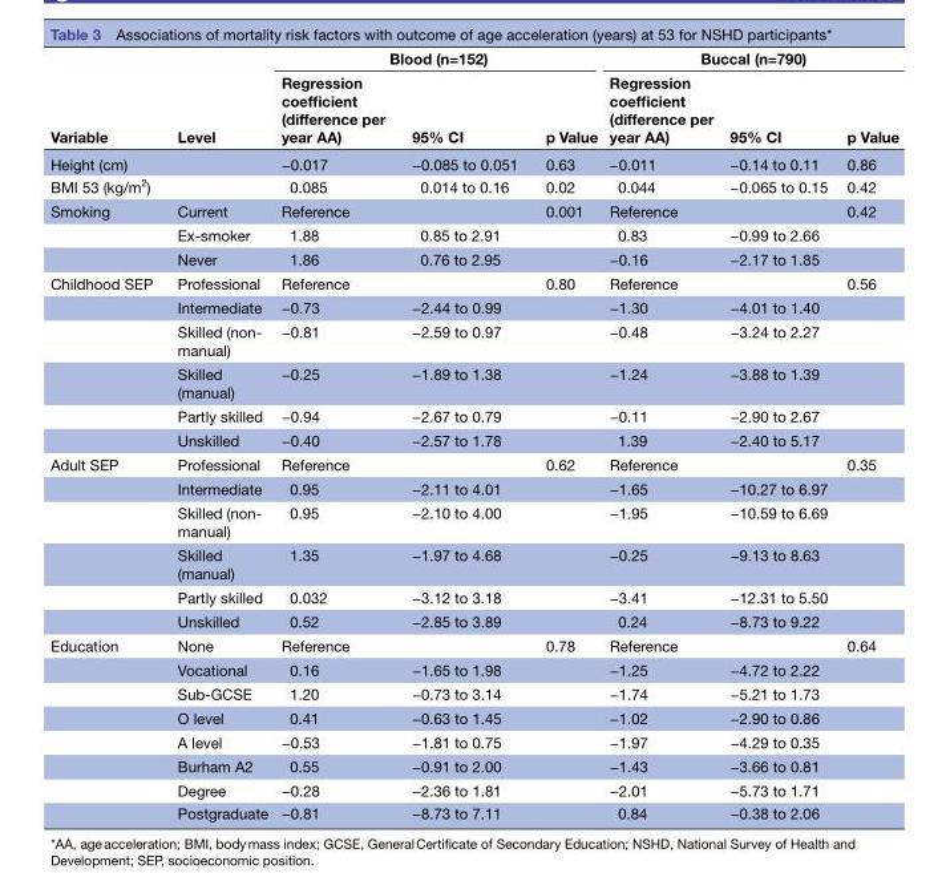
<table><thead><tr><td rowspan="2">Variable</td><td rowspan="2">Level</td><td colspan="3">Blood (n=152)</td><td colspan="3">Buccal (n=790)</td></tr><tr><td>Regression coefficient (difference per year AA)</td><td>95% CI</td><td>p Value</td><td>Regression coefficient (difference per year AA)</td><td>95% CI</td><td>p Value</td></tr></thead><tbody><tr><td>Height (cm)</td><td></td><td>−0.017</td><td>−0.085 to 0.051</td><td>0.63</td><td>−0.011</td><td>−0.14 to 0.11</td><td>0.86</td></tr><tr><td>BMI 53 (kg/m<sup>2</sup>)</td><td></td><td>0.085</td><td>0.014 to 0.16</td><td>0.02</td><td>0.044</td><td>−0.065 to 0.15</td><td>0.42</td></tr><tr><td rowspan="3">Smoking</td><td>Current</td><td>Reference</td><td></td><td>0.001</td><td>Reference</td><td></td><td>0.42</td></tr><tr><td>Ex-smoker</td><td>1.88</td><td>0.85 to 2.91</td><td></td><td>0.83</td><td>−0.99 to 2.66</td><td></td></tr><tr><td>Never</td><td>1.86</td><td>0.76 to 2.95</td><td></td><td>−0.16</td><td>−2.17 to 1.85</td><td></td></tr><tr><td rowspan="6">Childhood SEP</td><td>Professional</td><td>Reference</td><td></td><td>0.80</td><td>Reference</td><td></td><td>0.56</td></tr><tr><td>Intermediate</td><td>−0.73</td><td>−2.44 to 0.99</td><td></td><td>−1.30</td><td>−4.01 to 1.40</td><td></td></tr><tr><td>Skilled (non- manual)</td><td>−0.81</td><td>−2.59 to 0.97</td><td></td><td>−0.48</td><td>−3.24 to 2.27</td><td></td></tr><tr><td>Skilled (manual)</td><td>−0.25</td><td>−1.89 to 1.38</td><td></td><td>−1.24</td><td>−3.88 to 1.39</td><td></td></tr><tr><td>Partly skilled</td><td>−0.94</td><td>−2.67 to 0.79</td><td></td><td>−0.11</td><td>−2.90 to 2.67</td><td></td></tr><tr><td>Unskilled</td><td>−0.40</td><td>−2.57 to 1.78</td><td></td><td>1.39</td><td>−2.40 to 5.17</td><td></td></tr><tr><td rowspan="6">Adult SEP</td><td>Professional</td><td>Reference</td><td></td><td>0.62</td><td>Reference</td><td></td><td>0.35</td></tr><tr><td>Intermediate</td><td>0.95</td><td>−2.11 to 4.01</td><td></td><td>−1.65</td><td>−10.27 to 6.97</td><td></td></tr><tr><td>Skilled (non- manual)</td><td>0.95</td><td>−2.10 to 4.00</td><td></td><td>−1.95</td><td>−10.59 to 6.69</td><td></td></tr><tr><td>Skilled (manual)</td><td>1.35</td><td>−1.97 to 4.68</td><td></td><td>−0.25</td><td>−9.13 to 8.63</td><td></td></tr><tr><td>Partly skilled</td><td>0.032</td><td>−3.12 to 3.18</td><td></td><td>−3.41</td><td>−12.31 to 5.50</td><td></td></tr><tr><td>Unskilled</td><td>0.52</td><td>−2.85 to 3.89</td><td></td><td>0.24</td><td>−8.73 to 9.22</td><td></td></tr><tr><td rowspan="8">Education</td><td>None</td><td>Reference</td><td></td><td>0.78</td><td>Reference</td><td></td><td>0.64</td></tr><tr><td>Vocational</td><td>0.16</td><td>−1.65 to 1.98</td><td></td><td>−1.25</td><td>−4.72 to 2.22</td><td></td></tr><tr><td>Sub-GCSE</td><td>1.20</td><td>−0.73 to 3.14</td><td></td><td>−1.74</td><td>−5.21 to 1.73</td><td></td></tr><tr><td>O level</td><td>0.41</td><td>−0.63 to 1.45</td><td></td><td>−1.02</td><td>−2.90 to 0.86</td><td></td></tr><tr><td>A level</td><td>−0.53</td><td>−1.81 to 0.75</td><td></td><td>−1.97</td><td>−4.29 to 0.35</td><td></td></tr><tr><td>Burham A2</td><td>0.55</td><td>−0.91 to 2.00</td><td></td><td>−1.43</td><td>−3.66 to 0.81</td><td></td></tr><tr><td>Degree</td><td>−0.28</td><td>−2.36 to 1.81</td><td></td><td>−2.01</td><td>−5.73 to 1.71</td><td></td></tr><tr><td>Postgraduate</td><td>−0.81</td><td>−8.73 to 7.11</td><td></td><td>0.84</td><td>−0.38 to 2.06</td><td></td></tr></tbody></table>